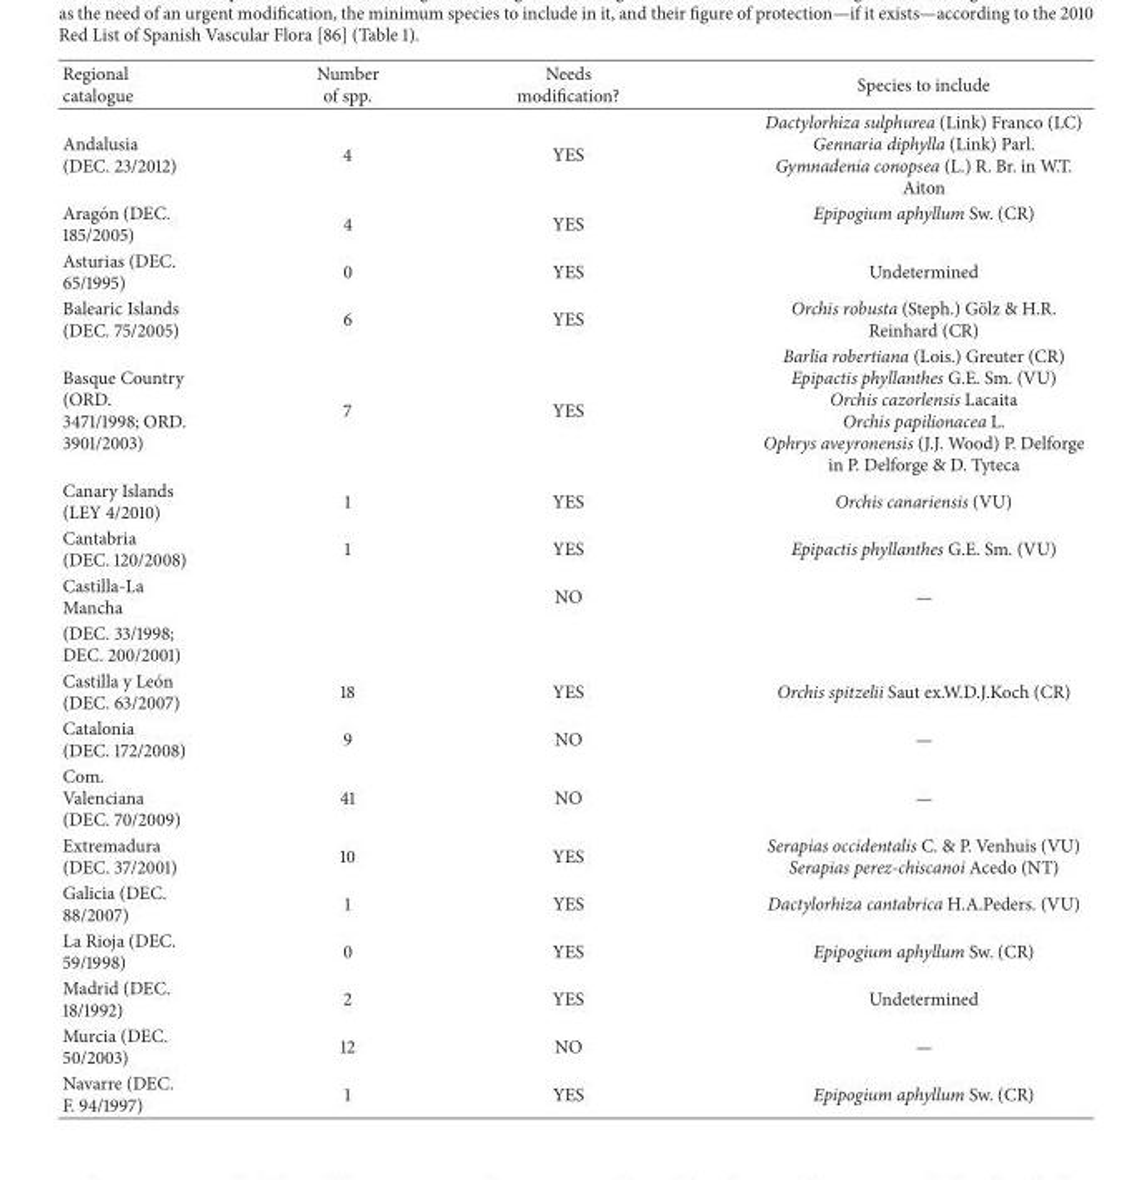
<table><thead><tr><td>Regional catalogue</td><td>Number of spp.</td><td>Needs modification?</td><td>Species to include</td></tr></thead><tbody><tr><td>Andalusia (DEC. 23/2012)</td><td>4</td><td>YES</td><td>Dactylorhiza sulphurea (Link) Franco (LC) Gennaria diphylla (Link) Parl. Gymnadenia conopsea (L.) R. Br. in W.T. Aiton</td></tr><tr><td>Arag´on (DEC. 185/2005)</td><td>4</td><td>YES</td><td>Epipogium aphyllum Sw. (CR)</td></tr><tr><td>Asturias (DEC. 65/1995)</td><td>0</td><td>YES</td><td>Undetermined</td></tr><tr><td>Balearic Islands (DEC. 75/2005)</td><td>6</td><td>YES</td><td>Orchis robusta (Steph.) G¨olz &amp; H.R. Reinhard (CR)</td></tr><tr><td>Basque Country (ORD. 3471/1998; ORD. 3901/2003)</td><td>7</td><td>YES</td><td>Barlia robertiana (Lois.) Greuter (CR) Epipactis phyllanthes G.E. Sm. (VU) Orchis cazorlensis Lacaita Orchis papilionacea L. Ophrys aveyronensis (J.J. Wood) P. Delforge in P. Delforge &amp; D. Tyteca</td></tr><tr><td>Canary Islands (LEY 4/2010)</td><td>1</td><td>YES</td><td>Orchis canariensis (VU)</td></tr><tr><td>Cantabria (DEC. 120/2008)</td><td>1</td><td>YES</td><td>Epipactis phyllanthes G.E. Sm. (VU)</td></tr><tr><td>Castilla-La Mancha</td><td></td><td>NO</td><td>—</td></tr><tr><td colspan="4">(DEC. 33/1998; DEC. 200/2001)</td></tr><tr><td>Castilla y Le´on (DEC. 63/2007)</td><td>18</td><td>YES</td><td>Orchis spitzelii Saut ex.W.D.J.Koch (CR)</td></tr><tr><td>Catalonia (DEC. 172/2008)</td><td>9</td><td>NO</td><td>—</td></tr><tr><td>Com. Valenciana (DEC. 70/2009)</td><td>41</td><td>NO</td><td>—</td></tr><tr><td>Extremadura (DEC. 37/2001)</td><td>10</td><td>YES</td><td>Serapias occidentalis C. &amp; P. Venhuis (VU) Serapias perez-chiscanoi Acedo (NT)</td></tr><tr><td>Galicia (DEC. 88/2007)</td><td>1</td><td>YES</td><td>Dactylorhiza cantabrica H.A.Peders. (VU)</td></tr><tr><td>La Rioja (DEC. 59/1998)</td><td>0</td><td>YES</td><td>Epipogium aphyllum Sw. (CR)</td></tr><tr><td>Madrid (DEC. 18/1992)</td><td>2</td><td>YES</td><td>Undetermined</td></tr><tr><td>Murcia (DEC. 50/2003)</td><td>12</td><td>NO</td><td>—</td></tr><tr><td>Navarre (DEC. F. 94/1997)</td><td>1</td><td>YES</td><td>Epipogium aphyllum Sw. (CR)</td></tr></tbody></table>